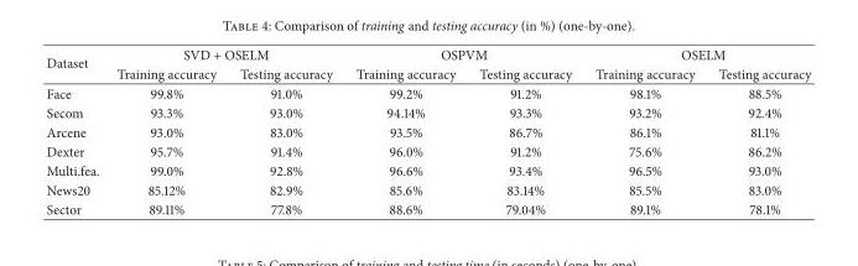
<table><thead><tr><td rowspan="2">Dataset</td><td colspan="2">SVD + OSELM</td><td colspan="2">OSPVM</td><td colspan="2">OSELM</td></tr><tr><td>Training accuracy</td><td>Testing accuracy</td><td>Training accuracy</td><td>Testing accuracy</td><td>Training accuracy</td><td>Testing accuracy</td></tr></thead><tbody><tr><td>Face</td><td>99.8%</td><td>91.0%</td><td>99.2%</td><td>91.2%</td><td>98.1%</td><td>88.5%</td></tr><tr><td>Secom</td><td>93.3%</td><td>93.0%</td><td>94.14%</td><td>93.3%</td><td>93.2%</td><td>92.4%</td></tr><tr><td>Arcene</td><td>93.0%</td><td>83.0%</td><td>93.5%</td><td>86.7%</td><td>86.1%</td><td>81.1%</td></tr><tr><td>Dexter</td><td>95.7%</td><td>91.4%</td><td>96.0%</td><td>91.2%</td><td>75.6%</td><td>86.2%</td></tr><tr><td>Multi.fea.</td><td>99.0%</td><td>92.8%</td><td>96.6%</td><td>93.4%</td><td>96.5%</td><td>93.0%</td></tr><tr><td>News20</td><td>85.12%</td><td>82.9%</td><td>85.6%</td><td>83.14%</td><td>85.5%</td><td>83.0%</td></tr><tr><td>Sector</td><td>89.11%</td><td>77.8%</td><td>88.6%</td><td>79.04%</td><td>89.1%</td><td>78.1%</td></tr></tbody></table>